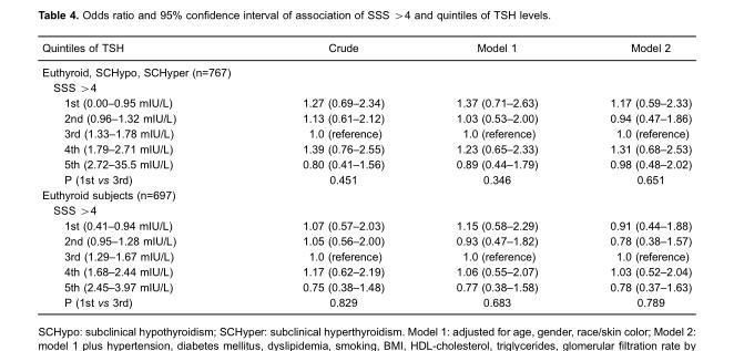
<table><thead><tr><td>Quintiles of TSH</td><td>Crude</td><td>Model 1</td><td>Model 2</td></tr></thead><tbody><tr><td colspan="4">Euthyroid, SCHypo, SCHyper (n=767)</td></tr><tr><td colspan="4">SSS &gt;4</td></tr><tr><td>1st (0.00–0.95 mIU/L)</td><td>1.27 (0.69–2.34)</td><td>1.37 (0.71–2.63)</td><td>1.17 (0.59–2.33)</td></tr><tr><td>2nd (0.96–1.32 mIU/L)</td><td>1.13 (0.61–2.12)</td><td>1.03 (0.53–2.00)</td><td>0.94 (0.47–1.86)</td></tr><tr><td>3rd (1.33–1.78 mIU/L)</td><td>1.0 (reference)</td><td>1.0 (reference)</td><td>1.0 (reference)</td></tr><tr><td>4th (1.79–2.71 mIU/L)</td><td>1.39 (0.76–2.55)</td><td>1.23 (0.65–2.33)</td><td>1.31 (0.68–2.53)</td></tr><tr><td>5th (2.72–35.5 mIU/L)</td><td>0.80 (0.41–1.56)</td><td>0.89 (0.44–1.79)</td><td>0.98 (0.48–2.02)</td></tr><tr><td>P (1st vs 3rd)</td><td>0.451</td><td>0.346</td><td>0.651</td></tr><tr><td colspan="4">Euthyroid subjects (n=697)</td></tr><tr><td colspan="4">SSS &gt;4</td></tr><tr><td>1st (0.41–0.94 mIU/L)</td><td>1.07 (0.57–2.03)</td><td>1.15 (0.58–2.29)</td><td>0.91 (0.44–1.88)</td></tr><tr><td>2nd (0.95–1.28 mIU/L)</td><td>1.05 (0.56–2.00)</td><td>0.93 (0.47–1.82)</td><td>0.78 (0.38–1.57)</td></tr><tr><td>3rd (1.29–1.67 mIU/L)</td><td>1.0 (reference)</td><td>1.0 (reference)</td><td>1.0 (reference)</td></tr><tr><td>4th (1.68–2.44 mIU/L)</td><td>1.17 (0.62–2.19)</td><td>1.06 (0.55–2.07)</td><td>1.03 (0.52–2.04)</td></tr><tr><td>5th (2.45–3.97 mIU/L)</td><td>0.75 (0.38–1.48)</td><td>0.77 (0.38–1.58)</td><td>0.78 (0.37–1.63)</td></tr><tr><td>P (1st vs 3rd)</td><td>0.829</td><td>0.683</td><td>0.789</td></tr></tbody></table>